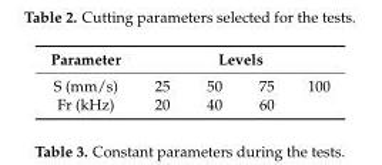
<table><thead><tr><td rowspan="2">Parameter S (mm/s)</td><td colspan="4">Levels</td></tr><tr><td>25</td><td>50</td><td>75</td><td>100</td></tr></thead><tbody><tr><td>Fr (kHz)</td><td>20</td><td>40</td><td>60</td><td></td></tr></tbody></table>